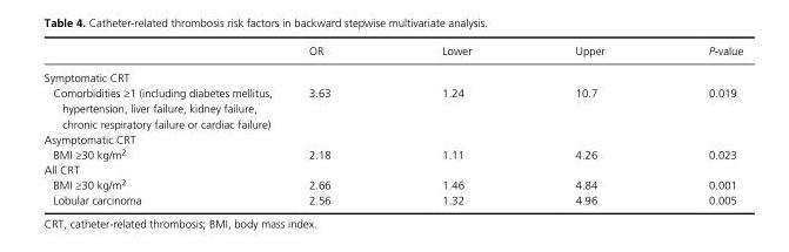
<table><thead><tr><td></td><td>OR</td><td>Lower</td><td>Upper</td><td>P- value</td></tr></thead><tbody><tr><td colspan="5">Symptomatic CRT</td></tr><tr><td>Comorbidities ≥1 (including diabetes mellitus, hypertension, liver failure, kidney failure, chronic respiratory failure or cardiac failure)</td><td>3.63</td><td>1.24</td><td>10.7</td><td>0.019</td></tr><tr><td colspan="5">Asymptomatic CRT</td></tr><tr><td>BMI ≥30 kg/m<sup>2</sup></td><td>2.18</td><td>1.11</td><td>4.26</td><td>0.023</td></tr><tr><td colspan="5">All CRT</td></tr><tr><td>BMI ≥30 kg/m<sup>2</sup></td><td>2.66</td><td>1.46</td><td>4.84</td><td>0.001</td></tr><tr><td>Lobular carcinoma</td><td>2.56</td><td>1.32</td><td>4.96</td><td>0.005</td></tr></tbody></table>